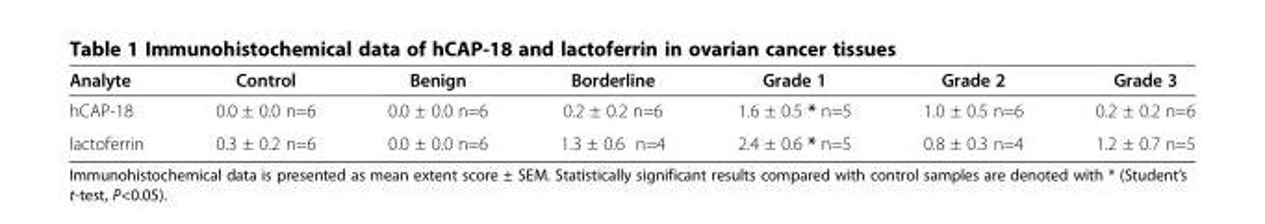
<table><thead><tr><td>Analyte</td><td>Control</td><td>Benign</td><td>Borderline</td><td>Grade 1</td><td>Grade 2</td><td>Grade 3</td></tr></thead><tbody><tr><td>hCAP-18</td><td>0.0 ± 0.0 n=6</td><td>0.0 ± 0.0 n=6</td><td>0.2 ± 0.2 n=6</td><td>1.6 ± 0.5 * n=5</td><td>1.0 ± 0.5 n=6</td><td>0.2 ± 0.2 n=6</td></tr><tr><td>lactoferrin</td><td>0.3 ± 0.2 n=6</td><td>0.0 ± 0.0 n=6</td><td>1.3 ± 0.6 n=4</td><td>2.4 ± 0.6 * n=5</td><td>0.8 ± 0.3 n=4</td><td>1.2 ± 0.7 n=5</td></tr></tbody></table>